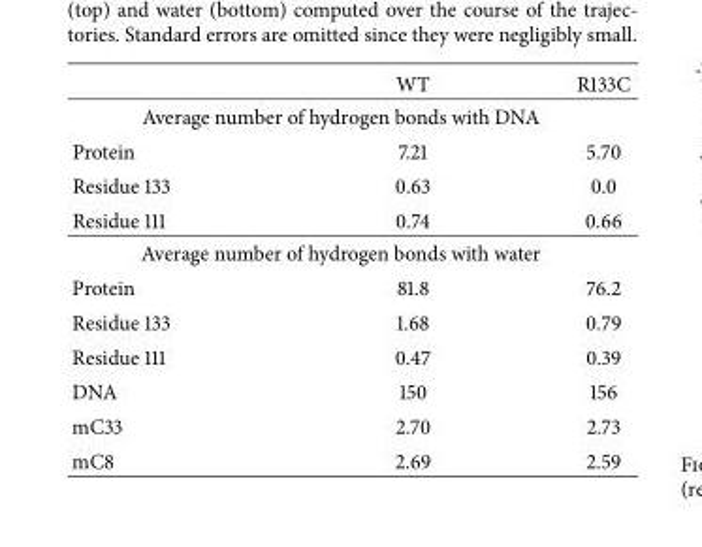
<table><thead><tr><td></td><td>WT</td><td>R133C</td></tr></thead><tbody><tr><td colspan="3">Average number of hydrogen bonds with DNA</td></tr><tr><td>Protein</td><td>7.21</td><td>5.70</td></tr><tr><td>Residue 133</td><td>0.63</td><td>0.0</td></tr><tr><td>Residue 111</td><td>0.74</td><td>0.66</td></tr><tr><td colspan="3">Average number of hydrogen bonds with water</td></tr><tr><td>Protein</td><td>81.8</td><td>76.2</td></tr><tr><td>Residue 133</td><td>1.68</td><td>0.79</td></tr><tr><td>Residue 111</td><td>0.47</td><td>0.39</td></tr><tr><td>DNA</td><td>150</td><td>156</td></tr><tr><td>mC33</td><td>2.70</td><td>2.73</td></tr><tr><td>mC8</td><td>2.69</td><td>2.59</td></tr></tbody></table>